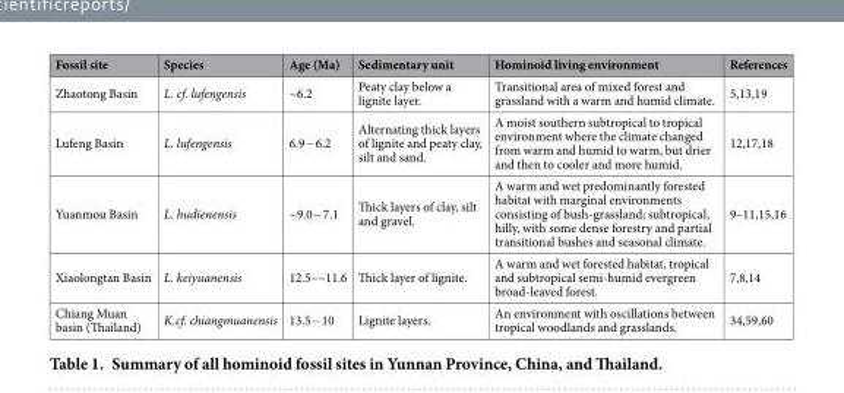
<table><thead><tr><td>Fossil site</td><td>Species</td><td>Age (Ma)</td><td>Sedimentary unit</td><td>Hominoid living environment</td><td>References</td></tr></thead><tbody><tr><td>Zhaotong Basin</td><td>L. cf. lufengensis</td><td>~6.2</td><td>Peaty clay below a lignite layer.</td><td>Transitional area of mixed forest and grassland with a warm and humid climate.</td><td>5,13,19</td></tr><tr><td>Lufeng Basin</td><td>L. lufengensis</td><td>6.9− 6.2</td><td>Alternating thick layers of lignite and peaty clay, silt and sand.</td><td>A moist southern subtropical to tropical environment where the climate changed from warm and humid to warm, but drier and then to cooler and more humid.</td><td>12,17,18</td></tr><tr><td>Yuanmou Basin</td><td>L. hudienensis</td><td>~9.0− 7.1</td><td>Thick layers of clay, silt and gravel.</td><td>A warm and wet predominantly forested habitat with marginal environments consisting of bush-grassland; subtropical, hilly, with some dense forestry and partial transitional bushes and seasonal climate.</td><td>9–11,15,16</td></tr><tr><td>Xiaolongtan Basin</td><td>L. keiyuanensis</td><td>12.5–~11.6</td><td>Thick layer of lignite.</td><td>A warm and wet forested habitat, tropical and subtropical semi-humid evergreen broad-leaved forest.</td><td>7,8,14</td></tr><tr><td>Chiang Muan basin (Thailand)</td><td>K.cf. chiangmuanensis</td><td>13.5− 10</td><td>Lignite layers.</td><td>An environment with oscillations between tropical woodlands and grasslands.</td><td>34,59,60</td></tr></tbody></table>